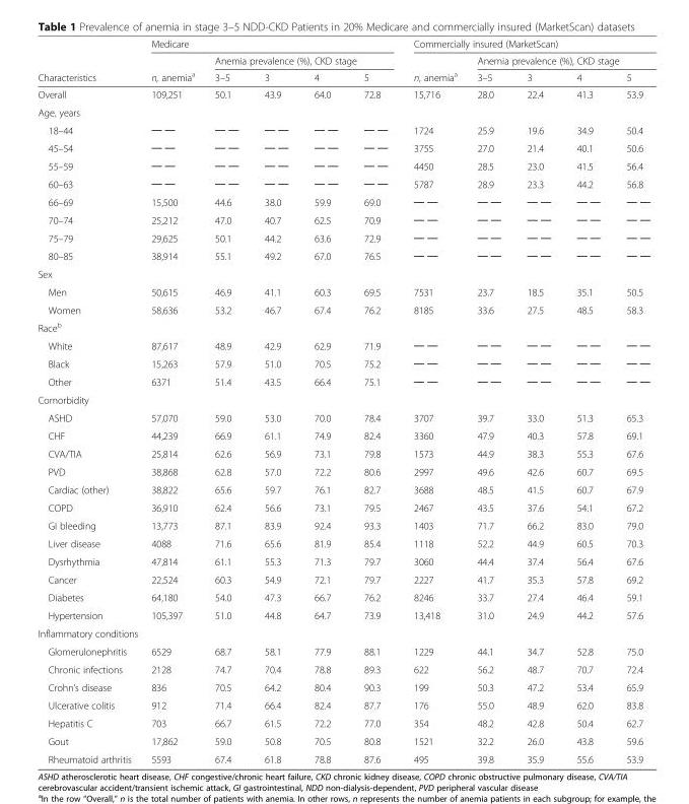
<table><thead><tr><td rowspan="3">Characteristics</td><td colspan="5">Medicare</td><td colspan="5">Commercially insured (MarketScan)</td></tr><tr><td rowspan="2">n, anemia<sup>a</sup></td><td colspan="4">Anemia prevalence (%), CKD stage</td><td rowspan="2">n, anemia<sup>a</sup></td><td colspan="4">Anemia prevalence (%), CKD stage</td></tr><tr><td>3–5</td><td>3</td><td>4</td><td>5</td><td>3–5</td><td>3</td><td>4</td><td>5</td></tr></thead><tbody><tr><td>Overall</td><td>109,251</td><td>50.1</td><td>43.9</td><td>64.0</td><td>72.8</td><td>15,716</td><td>28.0</td><td>22.4</td><td>41.3</td><td>53.9</td></tr><tr><td colspan="11">Age, years</td></tr><tr><td>18–44</td><td>─ ─</td><td>─ ─</td><td>─ ─</td><td>─ ─</td><td>─ ─</td><td>1724</td><td>25.9</td><td>19.6</td><td>34.9</td><td>50.4</td></tr><tr><td>45–54</td><td>─ ─</td><td>─ ─</td><td>─ ─</td><td>─ ─</td><td>─ ─</td><td>3755</td><td>27.0</td><td>21.4</td><td>40.1</td><td>50.6</td></tr><tr><td>55–59</td><td>─ ─</td><td>─ ─</td><td>─ ─</td><td>─ ─</td><td>─ ─</td><td>4450</td><td>28.5</td><td>23.0</td><td>41.5</td><td>56.4</td></tr><tr><td>60–63</td><td>─ ─</td><td>─ ─</td><td>─ ─</td><td>─ ─</td><td>─ ─</td><td>5787</td><td>28.9</td><td>23.3</td><td>44.2</td><td>56.8</td></tr><tr><td>66–69</td><td>15,500</td><td>44.6</td><td>38.0</td><td>59.9</td><td>69.0</td><td>─ ─</td><td>─ ─</td><td>─ ─</td><td>─ ─</td><td>─ ─</td></tr><tr><td>70–74</td><td>25,212</td><td>47.0</td><td>40.7</td><td>62.5</td><td>70.9</td><td>─ ─</td><td>─ ─</td><td>─ ─</td><td>─ ─</td><td>─ ─</td></tr><tr><td>75–79</td><td>29,625</td><td>50.1</td><td>44.2</td><td>63.6</td><td>72.9</td><td>─ ─</td><td>─ ─</td><td>─ ─</td><td>─ ─</td><td>─ ─</td></tr><tr><td>80–85</td><td>38,914</td><td>55.1</td><td>49.2</td><td>67.0</td><td>76.5</td><td>─ ─</td><td>─ ─</td><td>─ ─</td><td>─ ─</td><td>─ ─</td></tr><tr><td colspan="11">Sex</td></tr><tr><td>Men</td><td>50,615</td><td>46.9</td><td>41.1</td><td>60.3</td><td>69.5</td><td>7531</td><td>23.7</td><td>18.5</td><td>35.1</td><td>50.5</td></tr><tr><td>Women</td><td>58,636</td><td>53.2</td><td>46.7</td><td>67.4</td><td>76.2</td><td>8185</td><td>33.6</td><td>27.5</td><td>48.5</td><td>58.3</td></tr><tr><td colspan="11">Race<sup>b</sup></td></tr><tr><td>White</td><td>87,617</td><td>48.9</td><td>42.9</td><td>62.9</td><td>71.9</td><td>─ ─</td><td>─ ─</td><td>─ ─</td><td>─ ─</td><td>─ ─</td></tr><tr><td>Black</td><td>15,263</td><td>57.9</td><td>51.0</td><td>70.5</td><td>75.2</td><td>─ ─</td><td>─ ─</td><td>─ ─</td><td>─ ─</td><td>─ ─</td></tr><tr><td>Other</td><td>6371</td><td>51.4</td><td>43.5</td><td>66.4</td><td>75.1</td><td>─ ─</td><td>─ ─</td><td>─ ─</td><td>─ ─</td><td>─ ─</td></tr><tr><td colspan="11">Comorbidity</td></tr><tr><td>ASHD</td><td>57,070</td><td>59.0</td><td>53.0</td><td>70.0</td><td>78.4</td><td>3707</td><td>39.7</td><td>33.0</td><td>51.3</td><td>65.3</td></tr><tr><td>CHF</td><td>44,239</td><td>66.9</td><td>61.1</td><td>74.9</td><td>82.4</td><td>3360</td><td>47.9</td><td>40.3</td><td>57.8</td><td>69.1</td></tr><tr><td>CVA/TIA</td><td>25,814</td><td>62.6</td><td>56.9</td><td>73.1</td><td>79.8</td><td>1573</td><td>44.9</td><td>38.3</td><td>55.3</td><td>67.6</td></tr><tr><td>PVD</td><td>38,868</td><td>62.8</td><td>57.0</td><td>72.2</td><td>80.6</td><td>2997</td><td>49.6</td><td>42.6</td><td>60.7</td><td>69.5</td></tr><tr><td>Cardiac (other)</td><td>38,822</td><td>65.6</td><td>59.7</td><td>76.1</td><td>82.7</td><td>3688</td><td>48.5</td><td>41.5</td><td>60.7</td><td>67.9</td></tr><tr><td>COPD</td><td>36,910</td><td>62.4</td><td>56.6</td><td>73.1</td><td>79.5</td><td>2467</td><td>43.5</td><td>37.6</td><td>54.1</td><td>67.2</td></tr><tr><td>GI bleeding</td><td>13,773</td><td>87.1</td><td>83.9</td><td>92.4</td><td>93.3</td><td>1403</td><td>71.7</td><td>66.2</td><td>83.0</td><td>79.0</td></tr><tr><td>Liver disease</td><td>4088</td><td>71.6</td><td>65.6</td><td>81.9</td><td>85.4</td><td>1118</td><td>52.2</td><td>44.9</td><td>60.5</td><td>70.3</td></tr><tr><td>Dysrhythmia</td><td>47,814</td><td>61.1</td><td>55.3</td><td>71.3</td><td>79.7</td><td>3060</td><td>44.4</td><td>37.4</td><td>56.4</td><td>67.6</td></tr><tr><td>Cancer</td><td>22,524</td><td>60.3</td><td>54.9</td><td>72.1</td><td>79.7</td><td>2227</td><td>41.7</td><td>35.3</td><td>57.8</td><td>69.2</td></tr><tr><td>Diabetes</td><td>64,180</td><td>54.0</td><td>47.3</td><td>66.7</td><td>76.2</td><td>8246</td><td>33.7</td><td>27.4</td><td>46.4</td><td>59.1</td></tr><tr><td>Hypertension</td><td>105,397</td><td>51.0</td><td>44.8</td><td>64.7</td><td>73.9</td><td>13,418</td><td>31.0</td><td>24.9</td><td>44.2</td><td>57.6</td></tr><tr><td colspan="11">Inflammatory conditions</td></tr><tr><td>Glomerulonephritis</td><td>6529</td><td>68.7</td><td>58.1</td><td>77.9</td><td>88.1</td><td>1229</td><td>44.1</td><td>34.7</td><td>52.8</td><td>75.0</td></tr><tr><td>Chronic infections</td><td>2128</td><td>74.7</td><td>70.4</td><td>78.8</td><td>89.3</td><td>622</td><td>56.2</td><td>48.7</td><td>70.7</td><td>72.4</td></tr><tr><td>Crohn’s disease</td><td>836</td><td>70.5</td><td>64.2</td><td>80.4</td><td>90.3</td><td>199</td><td>50.3</td><td>47.2</td><td>53.4</td><td>65.9</td></tr><tr><td>Ulcerative colitis</td><td>912</td><td>71.4</td><td>66.4</td><td>82.4</td><td>87.7</td><td>176</td><td>55.0</td><td>48.9</td><td>62.0</td><td>83.8</td></tr><tr><td>Hepatitis C</td><td>703</td><td>66.7</td><td>61.5</td><td>72.2</td><td>77.0</td><td>354</td><td>48.2</td><td>42.8</td><td>50.4</td><td>62.7</td></tr><tr><td>Gout</td><td>17,862</td><td>59.0</td><td>50.8</td><td>70.5</td><td>80.8</td><td>1521</td><td>32.2</td><td>26.0</td><td>43.8</td><td>59.6</td></tr><tr><td>Rheumatoid arthritis</td><td>5593</td><td>67.4</td><td>61.8</td><td>78.8</td><td>87.6</td><td>495</td><td>39.8</td><td>35.9</td><td>55.6</td><td>53.9</td></tr></tbody></table>